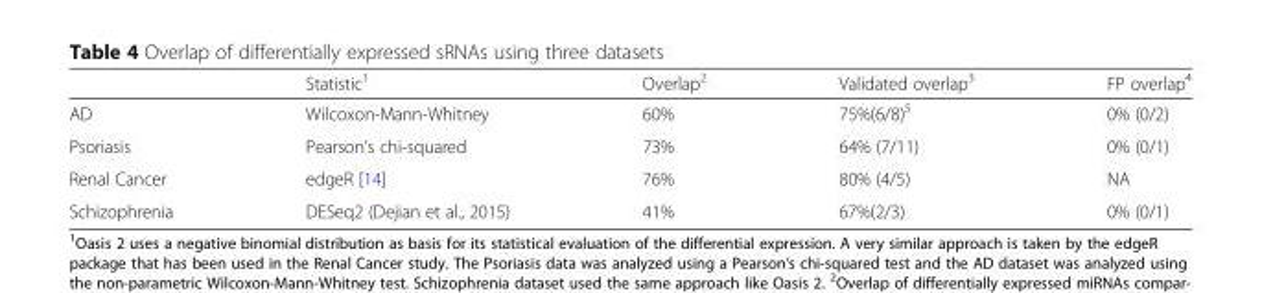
<table><thead><tr><td></td><td>Statistic<sup>1</sup></td><td>Overlap<sup>2</sup></td><td>Validated overlap<sup>3</sup></td><td>FP overlap<sup>4</sup></td></tr></thead><tbody><tr><td>AD</td><td>Wilcoxon-Mann-Whitney</td><td>60%</td><td>75%(6/8)<sup>5</sup></td><td>0% (0/2)</td></tr><tr><td>Psoriasis</td><td>Pearson’s chi-squared</td><td>73%</td><td>64% (7/11)</td><td>0% (0/1)</td></tr><tr><td>Renal Cancer</td><td>edgeR [14]</td><td>76%</td><td>80% (4/5)</td><td>NA</td></tr><tr><td>Schizophrenia</td><td>DESeq2 (Dejian et al., 2015)</td><td>41%</td><td>67%(2/3)</td><td>0% (0/1)</td></tr></tbody></table>